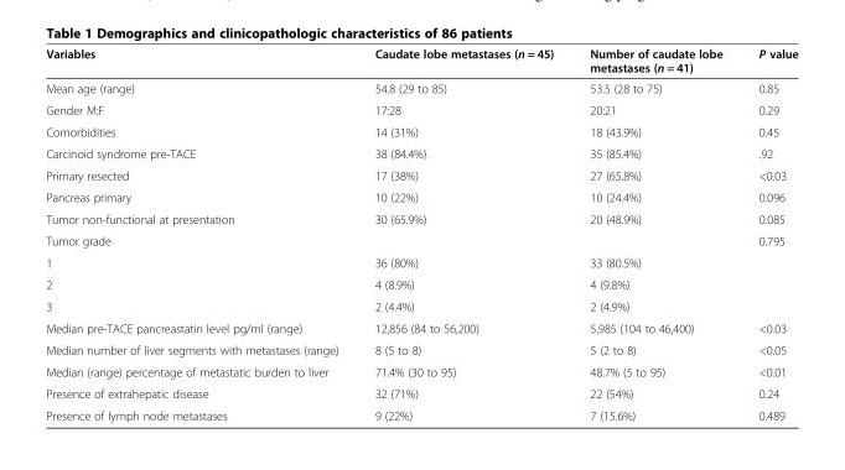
<table><thead><tr><td>Variables</td><td>Caudate lobe metastases (n = 45)</td><td>Number of caudate lobe metastases (n = 41)</td><td>P value</td></tr></thead><tbody><tr><td>Mean age (range)</td><td>54.8 (29 to 85)</td><td>53.5 (28 to 75)</td><td>0.85</td></tr><tr><td>Gender M:F</td><td>17:28</td><td>20:21</td><td>0.29</td></tr><tr><td>Comorbidities</td><td>14 (31%)</td><td>18 (43.9%)</td><td>0.45</td></tr><tr><td>Carcinoid syndrome pre-TACE</td><td>38 (84.4%)</td><td>35 (85.4%)</td><td>.92</td></tr><tr><td>Primary resected</td><td>17 (38%)</td><td>27 (65.8%)</td><td>&lt;0.03</td></tr><tr><td>Pancreas primary</td><td>10 (22%)</td><td>10 (24.4%)</td><td>0.096</td></tr><tr><td>Tumor non-functional at presentation</td><td>30 (65.9%)</td><td>20 (48.9%)</td><td>0.085</td></tr><tr><td>Tumor grade</td><td></td><td></td><td>0.795</td></tr><tr><td>1</td><td>36 (80%)</td><td>33 (80.5%)</td><td></td></tr><tr><td>2</td><td>4 (8.9%)</td><td>4 (9.8%)</td><td></td></tr><tr><td>3</td><td>2 (4.4%)</td><td>2 (4.9%)</td><td></td></tr><tr><td>Median pre-TACE pancreastatin level pg/ml (range)</td><td>12,856 (84 to 56,200)</td><td>5,985 (104 to 46,400)</td><td>&lt;0.03</td></tr><tr><td>Median number of liver segments with metastases (range)</td><td>8 (5 to 8)</td><td>5 (2 to 8)</td><td>&lt;0.05</td></tr><tr><td>Median (range) percentage of metastatic burden to liver</td><td>71.4% (30 to 95)</td><td>48.7% (5 to 95)</td><td>&lt;0.01</td></tr><tr><td>Presence of extrahepatic disease</td><td>32 (71%)</td><td>22 (54%)</td><td>0.24</td></tr><tr><td>Presence of lymph node metastases</td><td>9 (22%)</td><td>7 (15.6%)</td><td>0.489</td></tr></tbody></table>